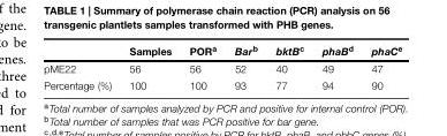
<table><thead><tr><td></td><td>Samples</td><td>POR<sup>a</sup></td><td>Bar<sup>b</sup></td><td>bktB<sup>c</sup></td><td>phaB<sup>d</sup></td><td>phaC<sup>e</sup></td></tr></thead><tbody><tr><td>pME22</td><td>56</td><td>56</td><td>52</td><td>40</td><td>49</td><td>47</td></tr><tr><td>Percentage (%)</td><td>100</td><td>100</td><td>93</td><td>77</td><td>94</td><td>90</td></tr></tbody></table>